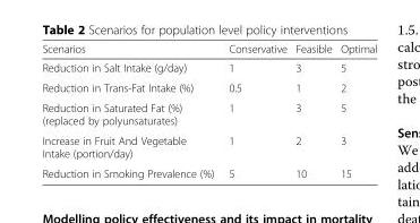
<table><thead><tr><td>Scenarios</td><td>Conservative</td><td>Feasible</td><td>Optimal</td></tr></thead><tbody><tr><td>Reduction in Salt Intake (g/day)</td><td>1</td><td>3</td><td>5</td></tr><tr><td>Reduction in Trans-Fat Intake (%)</td><td>0.5</td><td>1</td><td>2</td></tr><tr><td>Reduction in Saturated Fat (%) (replaced by polyunsaturates)</td><td>1</td><td>3</td><td>5</td></tr><tr><td>Increase in Fruit And Vegetable Intake (portion/day)</td><td>1</td><td>2</td><td>3</td></tr><tr><td>Reduction in Smoking Prevalence (%)</td><td>5</td><td>10</td><td>15</td></tr></tbody></table>